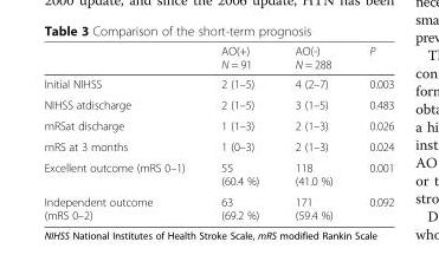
<table><thead><tr><td></td><td>AO(+) N = 91</td><td>AO(-) N = 288</td><td>P</td></tr></thead><tbody><tr><td>Initial NIHSS</td><td>2 (1–5)</td><td>4 (2–7)</td><td>0.003</td></tr><tr><td>NIHSS atdischarge</td><td>2 (1–5)</td><td>3 (1–5)</td><td>0.483</td></tr><tr><td>mRSat discharge</td><td>1 (1–3)</td><td>2 (1–3)</td><td>0.026</td></tr><tr><td>mRS at 3 months</td><td>1 (0–3)</td><td>2 (1–3)</td><td>0.024</td></tr><tr><td>Excellent outcome (mRS 0–1)</td><td>55 (60.4 %)</td><td>118 (41.0 %)</td><td>0.001</td></tr><tr><td>Independent outcome (mRS 0–2)</td><td>63 (69.2 %)</td><td>171 (59.4 %)</td><td>0.092</td></tr></tbody></table>